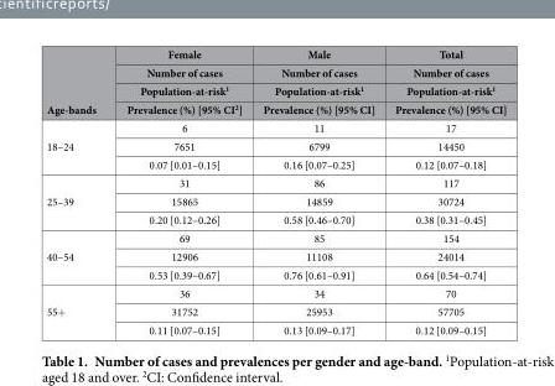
<table><thead><tr><td rowspan="4">Age-bands</td><td rowspan="4">Female Number of cases Population-at-risk<sup>1</sup> Prevalence (%) [95% CI<sup>2</sup>]</td><td rowspan="4">Male Number of cases Population-at-risk<sup>1</sup> Prevalence (%) [95% CI]</td><td rowspan="4">Total Number of cases Population-at-risk<sup>1</sup> Prevalence (%) [95% CI]</td></tr><tr></tr><tr></tr><tr></tr></thead><tbody><tr><td rowspan="3">18–24</td><td>6</td><td>11</td><td>17</td></tr><tr><td>7651</td><td>6799</td><td>14450</td></tr><tr><td>0.07 [0.01–0.15]</td><td>0.16 [0.07–0.25]</td><td>0.12 [0.07–0.18]</td></tr><tr><td rowspan="3">25–39</td><td>31</td><td>86</td><td>117</td></tr><tr><td>15865</td><td>14859</td><td>30724</td></tr><tr><td>0.20 [0.12–0.26]</td><td>0.58 [0.46–0.70]</td><td>0.38 [0.31–0.45]</td></tr><tr><td rowspan="3">40–54</td><td>69</td><td>85</td><td>154</td></tr><tr><td>12906</td><td>11108</td><td>24014</td></tr><tr><td>0.53 [0.39–0.67]</td><td>0.76 [0.61–0.91]</td><td>0.64 [0.54–0.74]</td></tr><tr><td rowspan="3">55+</td><td>36</td><td>34</td><td>70</td></tr><tr><td>31752</td><td>25953</td><td>57705</td></tr><tr><td>0.11 [0.07–0.15]</td><td>0.13 [0.09–0.17]</td><td>0.12 [0.09–0.15]</td></tr></tbody></table>